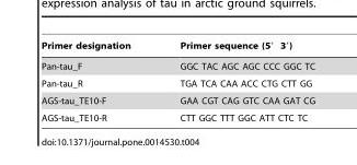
<table><thead><tr><td>Primer designation</td><td>Primer sequence (5′ 3′)</td></tr></thead><tbody><tr><td>Pan-tau_F</td><td>GGC TAC AGC AGC CCC GGC TC</td></tr><tr><td>Pan-tau_R</td><td>TGA TCA CAA ACC CTG CTT GG</td></tr><tr><td>AGS-tau_TE10-F</td><td>GAA CGT CAG GTC CAA GAT CG</td></tr><tr><td>AGS-tau_TE10-R</td><td>CTT GGC TTT GGC ATT CTC TC</td></tr></tbody></table>